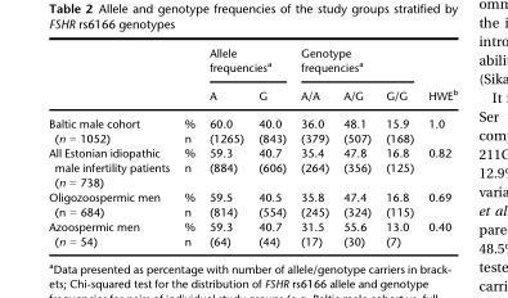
<table><thead><tr><td rowspan="2"></td><td rowspan="2"></td><td colspan="2">Allele frequencies<sup>a</sup></td><td colspan="3">Genotype frequencies<sup>a</sup></td><td rowspan="2">HWE<sup>b</sup></td></tr><tr><td>A</td><td>G</td><td>A/A</td><td>A/G</td><td>G/G</td></tr></thead><tbody><tr><td>Baltic male cohort (n = 1052)</td><td>% n</td><td>60.0 (1265)</td><td>40.0 (843)</td><td>36.0 (379)</td><td>48.1 (507)</td><td>15.9 (168)</td><td>1.0</td></tr><tr><td>All Estonian idiopathic male infertility patients (n = 738)</td><td>% n</td><td>59.3 (884)</td><td>40.7 (606)</td><td>35.4 (264)</td><td>47.8 (356)</td><td>16.8 (125)</td><td>0.82</td></tr><tr><td>Oligozoospermic men (n = 684)</td><td>% n</td><td>59.5 (814)</td><td>40.5 (554)</td><td>35.8 (245)</td><td>47.4 (324)</td><td>16.8 (115)</td><td>0.69</td></tr><tr><td>Azoospermic men (n = 54)</td><td>% n</td><td>59.3 (64)</td><td>40.7 (44)</td><td>31.5 (17)</td><td>55.6 (30)</td><td>13.0 (7)</td><td>0.40</td></tr></tbody></table>